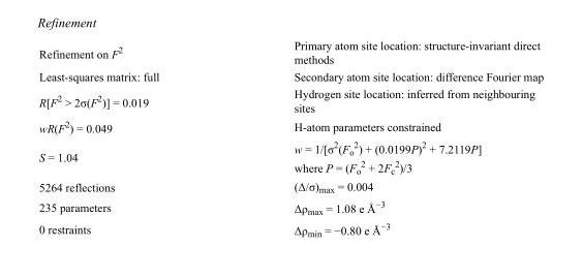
<table><tbody><tr><td>Refinement on F<sup>2</sup></td><td>Primary atom site location: structure-invariant direct methods</td></tr><tr><td>Least-squares matrix: full</td><td>Secondary atom site location: difference Fourier map</td></tr><tr><td>R[F<sup>2</sup> &gt; 2σ(F<sup>2</sup>)] = 0.019</td><td>Hydrogen site location: inferred from neighbouring sites</td></tr><tr><td>wR(F<sup>2</sup>) = 0.049</td><td>H-atom parameters constrained</td></tr><tr><td>S = 1.04</td><td>w = 1/[σ<sup>2</sup>(F<sub>o</sub> <sup>2</sup>) + (0.0199P)<sup>2</sup> + 7.2119P] where P = (F<sub>o</sub> <sup>2</sup> + 2F<sub>c</sub> <sup>2</sup>)/3</td></tr><tr><td>5264 reflections</td><td>(Δ/σ)<sub>max</sub> = 0.004</td></tr><tr><td>235 parameters</td><td>Δρ<sub>max</sub> = 1.08 e Å<sup>−3</sup></td></tr><tr><td>0 restraints</td><td>Δρ<sub>min</sub> = −0.80 e Å<sup>−3</sup></td></tr></tbody></table>